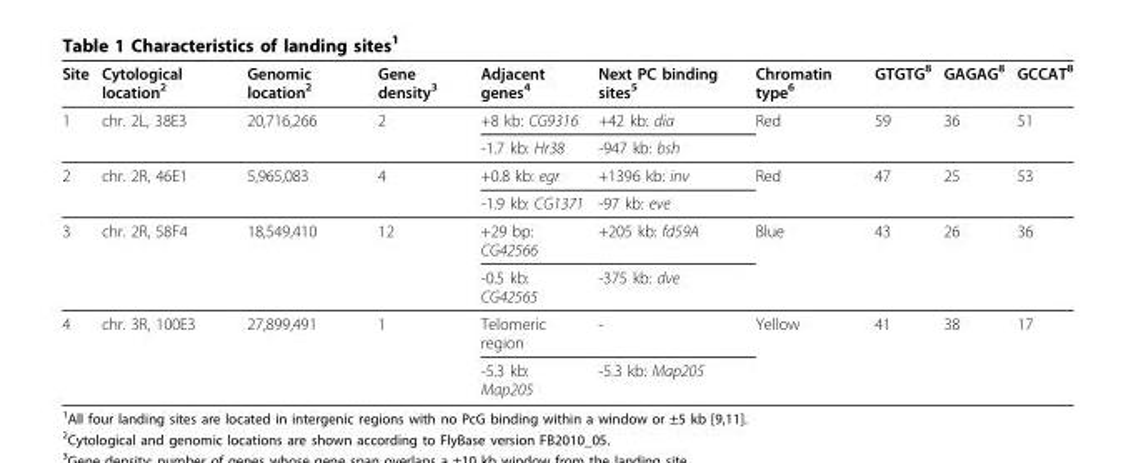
<table><thead><tr><td>Site</td><td>Cytological location<sup>2</sup></td><td>Genomic location<sup>2</sup></td><td>Gene density<sup>3</sup></td><td>Adjacent genes<sup>4</sup></td><td>Next PC binding sites<sup>5</sup></td><td>Chromatin type<sup>6</sup></td><td>GTGTG<sup>8</sup></td><td>GAGAG<sup>8</sup></td><td>GCCAT<sup>8</sup></td></tr></thead><tbody><tr><td rowspan="2">1</td><td>chr. 2L, 38E3</td><td>20,716,266</td><td>2</td><td>+8 kb: CG9316</td><td>+42 kb: dia</td><td>Red</td><td>59</td><td>36</td><td>51</td></tr><tr><td></td><td></td><td></td><td>-1.7 kb: Hr38</td><td>-947 kb: bsh</td><td></td><td></td><td></td><td></td></tr><tr><td rowspan="2">2</td><td>chr. 2R, 46E1</td><td>5,965,083</td><td>4</td><td>+0.8 kb: egr</td><td>+1396 kb: inv</td><td>Red</td><td>47</td><td>25</td><td>53</td></tr><tr><td></td><td></td><td></td><td>-1.9 kb: CG1371</td><td>-97 kb: eve</td><td></td><td></td><td></td><td></td></tr><tr><td rowspan="2">3</td><td>chr. 2R, 58F4</td><td>18,549,410</td><td>12</td><td>+29 bp: CG42566</td><td>+205 kb: fd59A</td><td>Blue</td><td>43</td><td>26</td><td>36</td></tr><tr><td></td><td></td><td></td><td>-0.5 kb: CG42565</td><td>-375 kb: dve</td><td></td><td></td><td></td><td></td></tr><tr><td rowspan="2">4</td><td>chr. 3R, 100E3</td><td>27,899,491</td><td>1</td><td>Telomeric region</td><td>-</td><td>Yellow</td><td>41</td><td>38</td><td>17</td></tr><tr><td></td><td></td><td></td><td>-5.3 kb: Map205</td><td>-5.3 kb: Map205</td><td></td><td></td><td></td><td></td></tr></tbody></table>